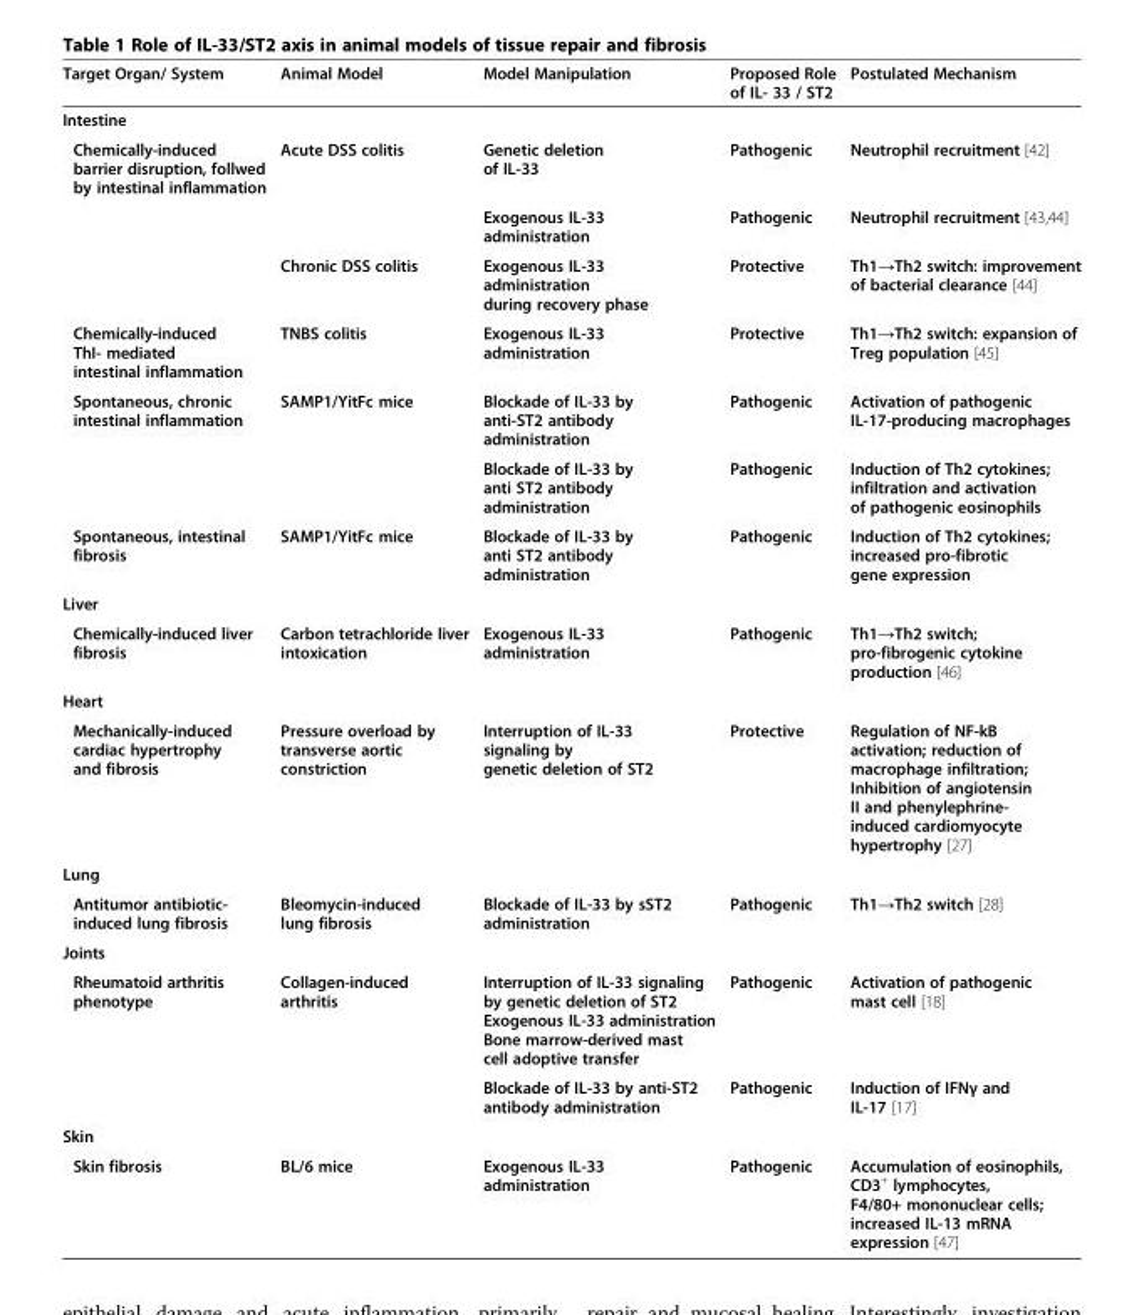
<table><thead><tr><td>Target Organ/ System</td><td>Animal Model</td><td>Model Manipulation</td><td>Proposed Role of IL- 33 / ST2</td><td>Postulated Mechanism</td></tr></thead><tbody><tr><td colspan="5">Intestine</td></tr><tr><td rowspan="3">Chemically-induced barrier disruption, follwed by intestinal inflammation</td><td>Acute DSS colitis</td><td>Genetic deletion of IL-33</td><td>Pathogenic</td><td>Neutrophil recruitment [42]</td></tr><tr><td></td><td>Exogenous IL-33 administration</td><td>Pathogenic</td><td>Neutrophil recruitment [43,44]</td></tr><tr><td>Chronic DSS colitis</td><td>Exogenous IL-33 administration during recovery phase</td><td>Protective</td><td>Th1→Th2 switch: improvement of bacterial clearance [44]</td></tr><tr><td>Chemically-induced ThI- mediated intestinal inflammation</td><td>TNBS colitis</td><td>Exogenous IL-33 administration</td><td>Protective</td><td>Th1→Th2 switch: expansion of Treg population [45]</td></tr><tr><td rowspan="2">Spontaneous, chronic intestinal inflammation</td><td>SAMP1/YitFc mice</td><td>Blockade of IL-33 by anti-ST2 antibody administration</td><td>Pathogenic</td><td>Activation of pathogenic IL-17-producing macrophages</td></tr><tr><td></td><td>Blockade of IL-33 by anti ST2 antibody administration</td><td>Pathogenic</td><td>Induction of Th2 cytokines; infiltration and activation of pathogenic eosinophils</td></tr><tr><td>Spontaneous, intestinal fibrosis</td><td>SAMP1/YitFc mice</td><td>Blockade of IL-33 by anti ST2 antibody administration</td><td>Pathogenic</td><td>Induction of Th2 cytokines; increased pro-fibrotic gene expression</td></tr><tr><td colspan="5">Liver</td></tr><tr><td>Chemically-induced liver fibrosis</td><td>Carbon tetrachloride liver intoxication</td><td>Exogenous IL-33 administration</td><td>Pathogenic</td><td>Th1→Th2 switch; pro-fibrogenic cytokine production [46]</td></tr><tr><td colspan="5">Heart</td></tr><tr><td>Mechanically-induced cardiac hypertrophy and fibrosis</td><td>Pressure overload by transverse aortic constriction</td><td>Interruption of IL-33 signaling by genetic deletion of ST2</td><td>Protective</td><td>Regulation of NF-kB activation; reduction of macrophage infiltration; Inhibition of angiotensin II and phenylephrine- induced cardiomyocyte hypertrophy [27]</td></tr><tr><td colspan="5">Lung</td></tr><tr><td>Antitumor antibiotic- induced lung fibrosis</td><td>Bleomycin-induced lung fibrosis</td><td>Blockade of IL-33 by sST2 administration</td><td>Pathogenic</td><td>Th1→Th2 switch [28]</td></tr><tr><td colspan="5">Joints</td></tr><tr><td rowspan="2">Rheumatoid arthritis phenotype</td><td>Collagen-induced arthritis</td><td>Interruption of IL-33 signaling by genetic deletion of ST2 Exogenous IL-33 administration Bone marrow-derived mast cell adoptive transfer</td><td>Pathogenic</td><td>Activation of pathogenic mast cell [18]</td></tr><tr><td></td><td>Blockade of IL-33 by anti-ST2 antibody administration</td><td>Pathogenic</td><td>Induction of IFNγ and IL-17 [17]</td></tr><tr><td colspan="5">Skin</td></tr><tr><td>Skin fibrosis</td><td>BL/6 mice</td><td>Exogenous IL-33 administration</td><td>Pathogenic</td><td>Accumulation of eosinophils, CD3<sup>+</sup> lymphocytes, F4/80+ mononuclear cells; increased IL-13 mRNA expression [47]</td></tr></tbody></table>